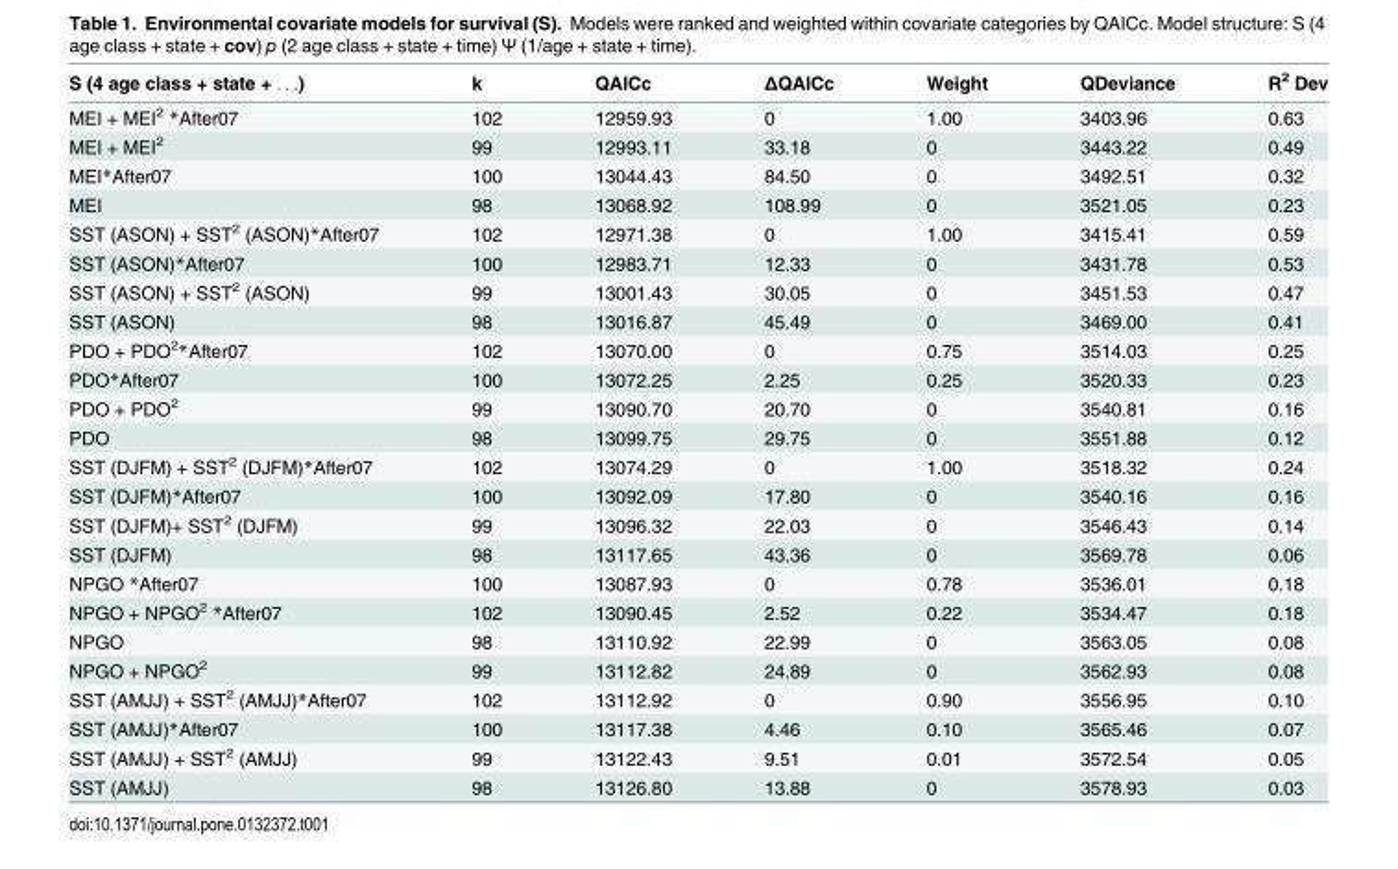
<table><thead><tr><td>S (4 age class + state + . . .)</td><td>k</td><td>QAICc</td><td>ΔQAICc</td><td>Weight</td><td>QDeviance</td><td>R<sup>2</sup> Dev</td></tr></thead><tbody><tr><td>MEI + MEI<sup>2</sup> *After07</td><td>102</td><td>12959.93</td><td>0</td><td>1.00</td><td>3403.96</td><td>0.63</td></tr><tr><td>MEI + MEI<sup>2</sup></td><td>99</td><td>12993.11</td><td>33.18</td><td>0</td><td>3443.22</td><td>0.49</td></tr><tr><td>MEI*After07</td><td>100</td><td>13044.43</td><td>84.50</td><td>0</td><td>3492.51</td><td>0.32</td></tr><tr><td>MEI</td><td>98</td><td>13068.92</td><td>108.99</td><td>0</td><td>3521.05</td><td>0.23</td></tr><tr><td>SST (ASON) + SST<sup>2</sup> (ASON)*After07</td><td>102</td><td>12971.38</td><td>0</td><td>1.00</td><td>3415.41</td><td>0.59</td></tr><tr><td>SST (ASON)*After07</td><td>100</td><td>12983.71</td><td>12.33</td><td>0</td><td>3431.78</td><td>0.53</td></tr><tr><td>SST (ASON) + SST<sup>2</sup> (ASON)</td><td>99</td><td>13001.43</td><td>30.05</td><td>0</td><td>3451.53</td><td>0.47</td></tr><tr><td>SST (ASON)</td><td>98</td><td>13016.87</td><td>45.49</td><td>0</td><td>3469.00</td><td>0.41</td></tr><tr><td>PDO + PDO<sup>2</sup>*After07</td><td>102</td><td>13070.00</td><td>0</td><td>0.75</td><td>3514.03</td><td>0.25</td></tr><tr><td>PDO*After07</td><td>100</td><td>13072.25</td><td>2.25</td><td>0.25</td><td>3520.33</td><td>0.23</td></tr><tr><td>PDO + PDO<sup>2</sup></td><td>99</td><td>13090.70</td><td>20.70</td><td>0</td><td>3540.81</td><td>0.16</td></tr><tr><td>PDO</td><td>98</td><td>13099.75</td><td>29.75</td><td>0</td><td>3551.88</td><td>0.12</td></tr><tr><td>SST (DJFM) + SST<sup>2</sup> (DJFM)*After07</td><td>102</td><td>13074.29</td><td>0</td><td>1.00</td><td>3518.32</td><td>0.24</td></tr><tr><td>SST (DJFM)*After07</td><td>100</td><td>13092.09</td><td>17.80</td><td>0</td><td>3540.16</td><td>0.16</td></tr><tr><td>SST (DJFM)+ SST<sup>2</sup> (DJFM)</td><td>99</td><td>13096.32</td><td>22.03</td><td>0</td><td>3546.43</td><td>0.14</td></tr><tr><td>SST (DJFM)</td><td>98</td><td>13117.65</td><td>43.36</td><td>0</td><td>3569.78</td><td>0.06</td></tr><tr><td>NPGO *After07</td><td>100</td><td>13087.93</td><td>0</td><td>0.78</td><td>3536.01</td><td>0.18</td></tr><tr><td>NPGO + NPGO<sup>2</sup> *After07</td><td>102</td><td>13090.45</td><td>2.52</td><td>0.22</td><td>3534.47</td><td>0.18</td></tr><tr><td>NPGO</td><td>98</td><td>13110.92</td><td>22.99</td><td>0</td><td>3563.05</td><td>0.08</td></tr><tr><td>NPGO + NPGO<sup>2</sup></td><td>99</td><td>13112.82</td><td>24.89</td><td>0</td><td>3562.93</td><td>0.08</td></tr><tr><td>SST (AMJJ) + SST<sup>2</sup> (AMJJ)*After07</td><td>102</td><td>13112.92</td><td>0</td><td>0.90</td><td>3556.95</td><td>0.10</td></tr><tr><td>SST (AMJJ)*After07</td><td>100</td><td>13117.38</td><td>4.46</td><td>0.10</td><td>3565.46</td><td>0.07</td></tr><tr><td>SST (AMJJ) + SST<sup>2</sup> (AMJJ)</td><td>99</td><td>13122.43</td><td>9.51</td><td>0.01</td><td>3572.54</td><td>0.05</td></tr><tr><td>SST (AMJJ)</td><td>98</td><td>13126.80</td><td>13.88</td><td>0</td><td>3578.93</td><td>0.03</td></tr></tbody></table>